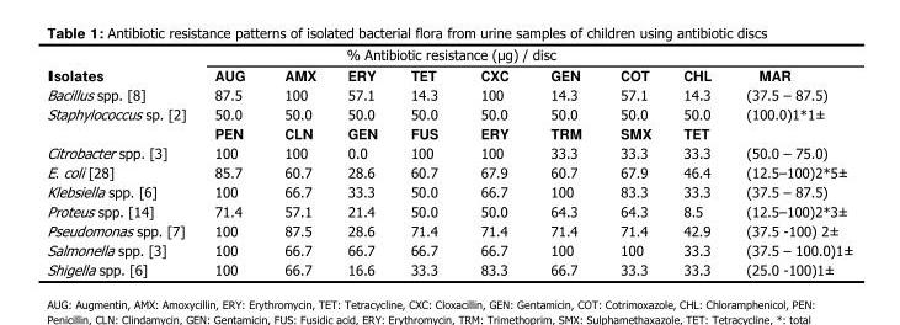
<table><thead><tr><td rowspan="2">Isolates</td><td colspan="9">% Antibiotic resistance (μg) / disc</td></tr><tr><td>AUG</td><td>AMX</td><td>ERY</td><td>TET</td><td>CXC</td><td>GEN</td><td>COT</td><td>CHL</td><td>MAR</td></tr></thead><tbody><tr><td>Bacillus spp. [8]</td><td>87.5</td><td>100</td><td>57.1</td><td>14.3</td><td>100</td><td>14.3</td><td>57.1</td><td>14.3</td><td>(37.5 – 87.5)</td></tr><tr><td rowspan="2">Staphylococcus sp. [2]</td><td>50.0</td><td>50.0</td><td>50.0</td><td>50.0</td><td>50.0</td><td>50.0</td><td>50.0</td><td>50.0</td><td>(100.0)1*1±</td></tr><tr><td>PEN</td><td>CLN</td><td>GEN</td><td>FUS</td><td>ERY</td><td>TRM</td><td>SMX</td><td>TET</td><td></td></tr><tr><td>Citrobacter spp. [3]</td><td>100</td><td>100</td><td>0.0</td><td>100</td><td>100</td><td>33.3</td><td>33.3</td><td>33.3</td><td>(50.0 – 75.0)</td></tr><tr><td>E. coli [28]</td><td>85.7</td><td>60.7</td><td>28.6</td><td>60.7</td><td>67.9</td><td>60.7</td><td>67.9</td><td>46.4</td><td>(12.5–100)2*5±</td></tr><tr><td>Klebsiella spp. [6]</td><td>100</td><td>66.7</td><td>33.3</td><td>50.0</td><td>66.7</td><td>100</td><td>83.3</td><td>33.3</td><td>(37.5 – 87.5)</td></tr><tr><td>Proteus spp. [14]</td><td>71.4</td><td>57.1</td><td>21.4</td><td>50.0</td><td>50.0</td><td>64.3</td><td>64.3</td><td>8.5</td><td>(12.5–100)2*3±</td></tr><tr><td>Pseudomonas spp. [7]</td><td>100</td><td>87.5</td><td>28.6</td><td>71.4</td><td>71.4</td><td>71.4</td><td>71.4</td><td>42.9</td><td>(37.5 -100) 2±</td></tr><tr><td>Salmonella spp. [3]</td><td>100</td><td>66.7</td><td>66.7</td><td>66.7</td><td>66.7</td><td>100</td><td>100</td><td>33.3</td><td>(37.5 – 100.0)1±</td></tr><tr><td>Shigella spp. [6]</td><td>100</td><td>66.7</td><td>16.6</td><td>33.3</td><td>83.3</td><td>66.7</td><td>33.3</td><td>33.3</td><td>(25.0 -100)1±</td></tr></tbody></table>